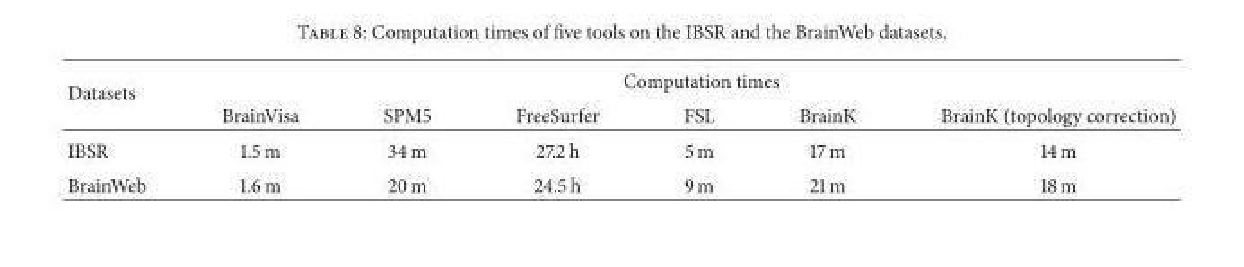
<table><thead><tr><td rowspan="2">Datasets</td><td colspan="6">Computation times</td></tr><tr><td>BrainVisa</td><td>SPM5</td><td>FreeSurfer</td><td>FSL</td><td>BrainK</td><td>BrainK (topology correction)</td></tr></thead><tbody><tr><td>IBSR</td><td>1.5 m</td><td>34 m</td><td>27.2 h</td><td>5 m</td><td>17 m</td><td>14 m</td></tr><tr><td>BrainWeb</td><td>1.6 m</td><td>20 m</td><td>24.5 h</td><td>9 m</td><td>21 m</td><td>18 m</td></tr></tbody></table>